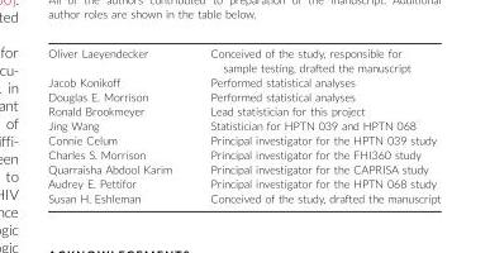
<table><tbody><tr><td>Oliver Laeyendecker</td><td>Conceived of the study, responsible for sample testing, drafted the manuscript</td></tr><tr><td>Jacob Konikoff</td><td>Performed statistical analyses</td></tr><tr><td>Douglas E. Morrison</td><td>Performed statistical analyses</td></tr><tr><td>Ronald Brookmeyer</td><td>Lead statistician for this project</td></tr><tr><td>Jing Wang</td><td>Statistician for HPTN 039 and HPTN 068</td></tr><tr><td>Connie Celum</td><td>Principal investigator for the HPTN 039 study</td></tr><tr><td>Charles S. Morrison</td><td>Principal investigator for the FHI360 study</td></tr><tr><td>Quarraisha Abdool Karim</td><td>Principal investigator for the CAPRISA study</td></tr><tr><td>Audrey E. Pettifor</td><td>Principal investigator for the HPTN 068 study</td></tr><tr><td>Susan H. Eshleman</td><td>Conceived of the study, drafted the manuscript</td></tr></tbody></table>